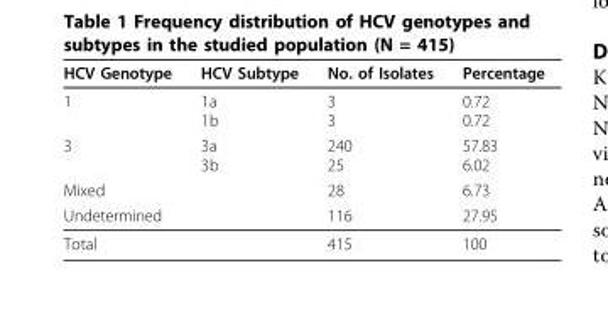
<table><thead><tr><td>HCV Genotype</td><td>HCV Subtype</td><td>No. of Isolates</td><td>Percentage</td></tr></thead><tbody><tr><td>1</td><td>1a 1b</td><td>3 3</td><td>0.72 0.72</td></tr><tr><td>3</td><td>3a 3b</td><td>240 25</td><td>57.83 6.02</td></tr><tr><td>Mixed</td><td></td><td>28</td><td>6.73</td></tr><tr><td>Undetermined</td><td></td><td>116</td><td>27.95</td></tr><tr><td>Total</td><td></td><td>415</td><td>100</td></tr></tbody></table>